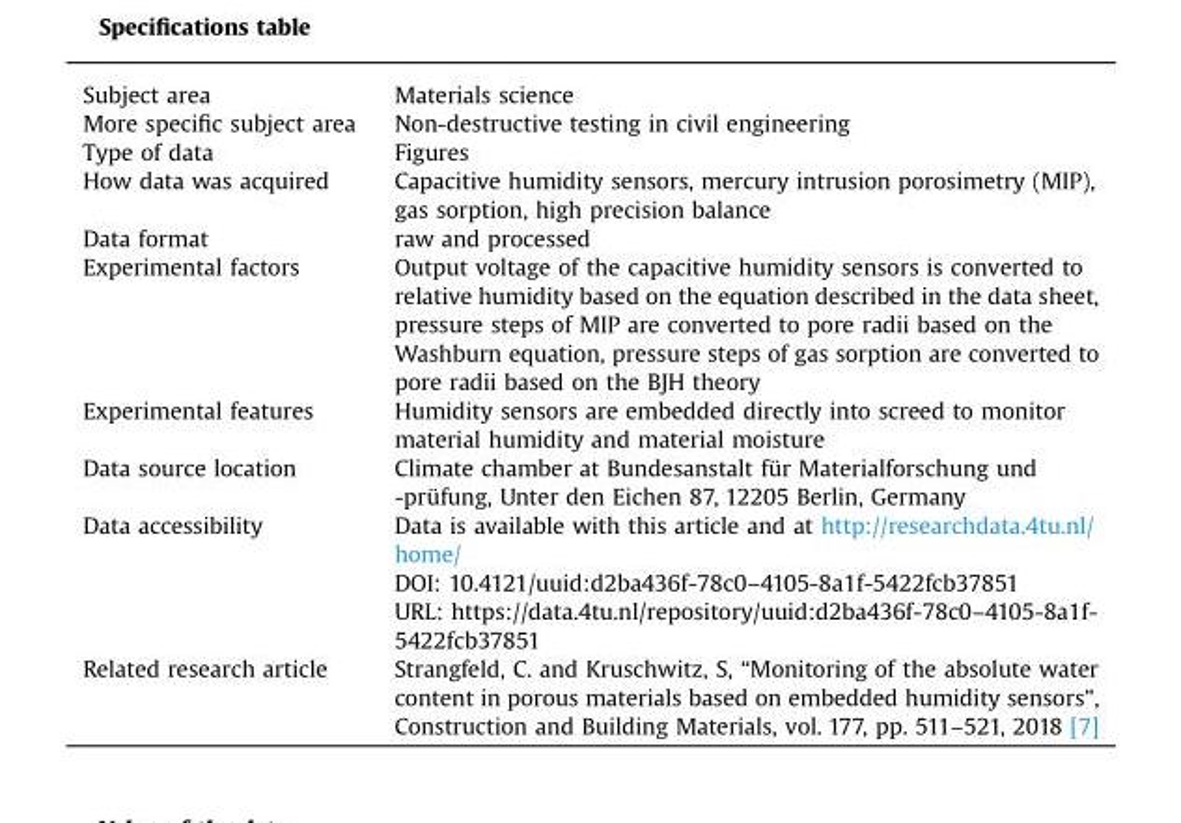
<table><tbody><tr><td>Subject area</td><td>Materials science</td></tr><tr><td>More specific subject area</td><td>Non-destructive testing in civil engineering</td></tr><tr><td>Type of data</td><td>Figures</td></tr><tr><td>How data was acquired</td><td>Capacitive humidity sensors, mercury intrusion porosimetry (MIP), gas sorption, high precision balance</td></tr><tr><td>Data format</td><td>raw and processed</td></tr><tr><td>Experimental factors</td><td>Output voltage of the capacitive humidity sensors is converted to relative humidity based on the equation described in the data sheet, pressure steps of MIP are converted to pore radii based on the Washburn equation, pressure steps of gas sorption are converted to pore radii based on the BJH theory</td></tr><tr><td>Experimental features</td><td>Humidity sensors are embedded directly into screed to monitor material humidity and material moisture</td></tr><tr><td>Data source location</td><td>Climate chamber at Bundesanstalt für Materialforschung und -prüfung, Unter den Eichen 87, 12205 Berlin, Germany</td></tr><tr><td rowspan="3">Data accessibility</td><td>Data is available with this article and at http://researchdata.4tu.nl/ home/</td></tr><tr><td>DOI: 10.4121/uuid:d2ba436f-78c0–4105-8a1f-5422fcb37851</td></tr><tr><td>URL: https://data.4tu.nl/repository/uuid:d2ba436f-78c0–4105-8a1f- 5422fcb37851</td></tr><tr><td>Related research article</td><td>Strangfeld, C. and Kruschwitz, S, “Monitoring of the absolute water content in porous materials based on embedded humidity sensors”, Construction and Building Materials, vol. 177, pp. 511–521, 2018 [7]</td></tr></tbody></table>